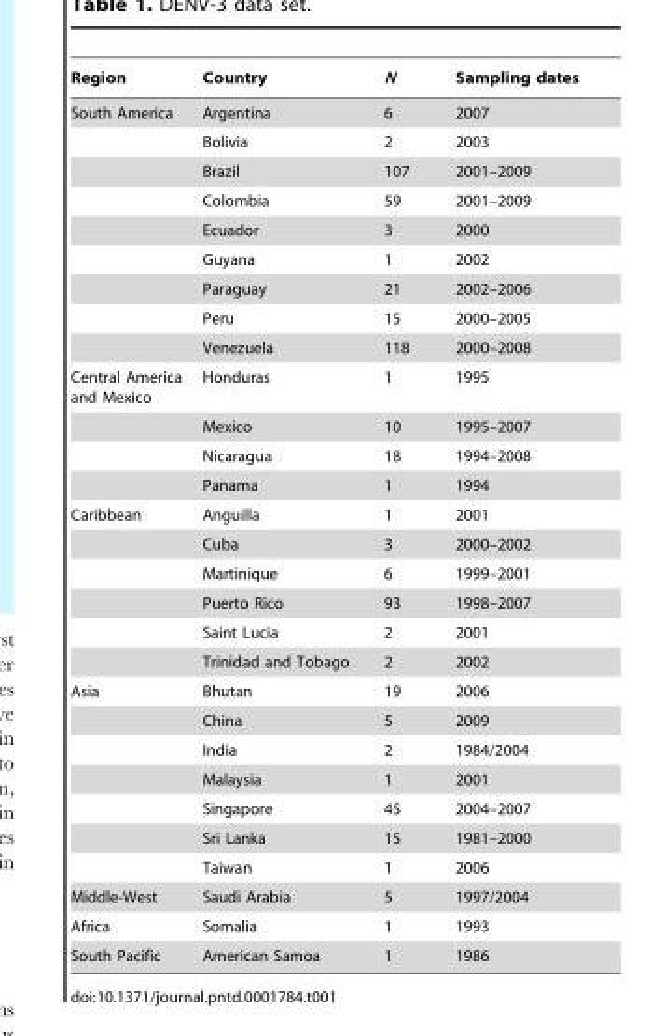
<table><thead><tr><td>Region</td><td>Country</td><td>N</td><td>Sampling dates</td></tr></thead><tbody><tr><td rowspan="9">South America</td><td>Argentina</td><td>6</td><td>2007</td></tr><tr><td>Bolivia</td><td>2</td><td>2003</td></tr><tr><td>Brazil</td><td>107</td><td>2001–2009</td></tr><tr><td>Colombia</td><td>59</td><td>2001–2009</td></tr><tr><td>Ecuador</td><td>3</td><td>2000</td></tr><tr><td>Guyana</td><td>1</td><td>2002</td></tr><tr><td>Paraguay</td><td>21</td><td>2002–2006</td></tr><tr><td>Peru</td><td>15</td><td>2000–2005</td></tr><tr><td>Venezuela</td><td>118</td><td>2000–2008</td></tr><tr><td rowspan="4">Central America and Mexico</td><td>Honduras</td><td>1</td><td>1995</td></tr><tr><td>Mexico</td><td>10</td><td>1995–2007</td></tr><tr><td>Nicaragua</td><td>18</td><td>1994–2008</td></tr><tr><td>Panama</td><td>1</td><td>1994</td></tr><tr><td rowspan="6">Caribbean</td><td>Anguilla</td><td>1</td><td>2001</td></tr><tr><td>Cuba</td><td>3</td><td>2000–2002</td></tr><tr><td>Martinique</td><td>6</td><td>1999–2001</td></tr><tr><td>Puerto Rico</td><td>93</td><td>1998–2007</td></tr><tr><td>Saint Lucia</td><td>2</td><td>2001</td></tr><tr><td>Trinidad and Tobago</td><td>2</td><td>2002</td></tr><tr><td rowspan="7">Asia</td><td>Bhutan</td><td>19</td><td>2006</td></tr><tr><td>China</td><td>5</td><td>2009</td></tr><tr><td>India</td><td>2</td><td>1984/2004</td></tr><tr><td>Malaysia</td><td>1</td><td>2001</td></tr><tr><td>Singapore</td><td>45</td><td>2004–2007</td></tr><tr><td>Sri Lanka</td><td>15</td><td>1981–2000</td></tr><tr><td>Taiwan</td><td>1</td><td>2006</td></tr><tr><td>Middle-West</td><td>Saudi Arabia</td><td>5</td><td>1997/2004</td></tr><tr><td>Africa</td><td>Somalia</td><td>1</td><td>1993</td></tr><tr><td>South Pacific</td><td>American Samoa</td><td>1</td><td>1986</td></tr></tbody></table>